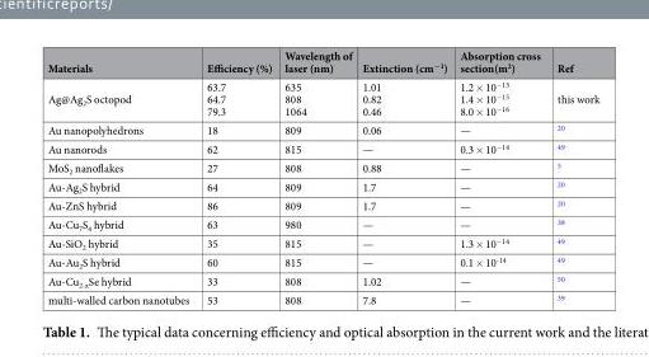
<table><thead><tr><td>Materials</td><td>Efficiency (%)</td><td>Wavelength of laser (nm)</td><td>Extinction (cm<sup>−1</sup>)</td><td>Absorption cross section(m<sup>2</sup>)</td><td>Ref</td></tr></thead><tbody><tr><td>Ag@Ag<sub>2</sub>S octopod</td><td>63.7 64.7 79.3</td><td>635 808 1064</td><td>1.01 0.82 0.46</td><td>1.2 × 10<sup>−13</sup> 1.4 × 10<sup>−15</sup> 8.0 × 10<sup>−16</sup></td><td>this work</td></tr><tr><td>Au nanopolyhedrons</td><td>18</td><td>809</td><td>0.06</td><td>—</td><td><sup>20</sup></td></tr><tr><td>Au nanorods</td><td>62</td><td>815</td><td>—</td><td>0.3 × 10<sup>−14</sup></td><td><sup>49</sup></td></tr><tr><td>MoS<sub>2</sub> nanoflakes</td><td>27</td><td>808</td><td>0.88</td><td>—</td><td><sup>5</sup></td></tr><tr><td>Au-Ag<sub>2</sub>S hybrid</td><td>64</td><td>809</td><td>1.7</td><td>—</td><td><sup>20</sup></td></tr><tr><td>Au-ZnS hybrid</td><td>86</td><td>809</td><td>1.7</td><td>—</td><td><sup>20</sup></td></tr><tr><td>Au-Cu<sub>7</sub>S<sub>4</sub> hybrid</td><td>63</td><td>980</td><td>—</td><td>—</td><td><sup>38</sup></td></tr><tr><td>Au-SiO<sub>2</sub> hybrid</td><td>35</td><td>815</td><td>—</td><td>1.3 × 10<sup>−14</sup></td><td><sup>49</sup></td></tr><tr><td>Au-Au<sub>2</sub>S hybrid</td><td>60</td><td>815</td><td>—</td><td>0.1 × 10<sup>-14</sup></td><td><sup>49</sup></td></tr><tr><td>Au-Cu<sub>2-x</sub>Se hybrid</td><td>33</td><td>808</td><td>1.02</td><td>—</td><td><sup>50</sup></td></tr><tr><td>multi-walled carbon nanotubes</td><td>53</td><td>808</td><td>7.8</td><td>—</td><td><sup>39</sup></td></tr></tbody></table>